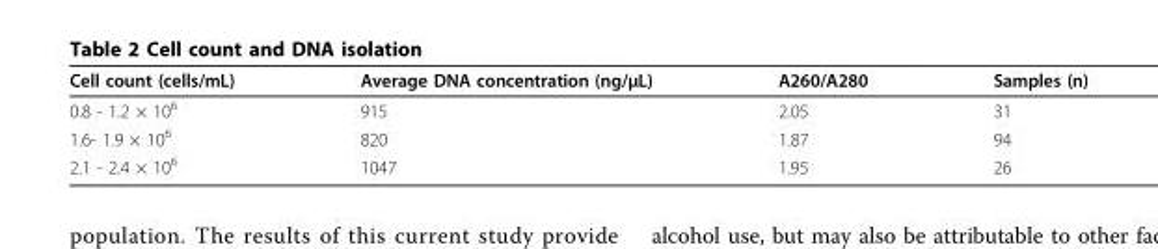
<table><thead><tr><td>Cell count (cells/mL)</td><td>Average DNA concentration (ng/μL)</td><td>A260/A280</td><td>Samples (n)</td></tr></thead><tbody><tr><td>0.8 - 1.2 × 10<sup>6</sup></td><td>915</td><td>2.05</td><td>31</td></tr><tr><td>1.6- 1.9 × 10<sup>6</sup></td><td>820</td><td>1.87</td><td>94</td></tr><tr><td>2.1 - 2.4 × 10<sup>6</sup></td><td>1047</td><td>1.95</td><td>26</td></tr></tbody></table>